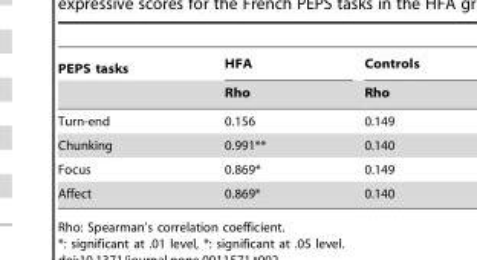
<table><thead><tr><td rowspan="2">PEPS tasks</td><td rowspan="2">HFA Rho</td><td rowspan="2">Controls Rho</td></tr><tr></tr></thead><tbody><tr><td>Turn-end</td><td>0.156</td><td>0.149</td></tr><tr><td>Chunking</td><td>0.991**</td><td>0.140</td></tr><tr><td>Focus</td><td>0.869*</td><td>0.149</td></tr><tr><td>Affect</td><td>0.869*</td><td>0.140</td></tr></tbody></table>